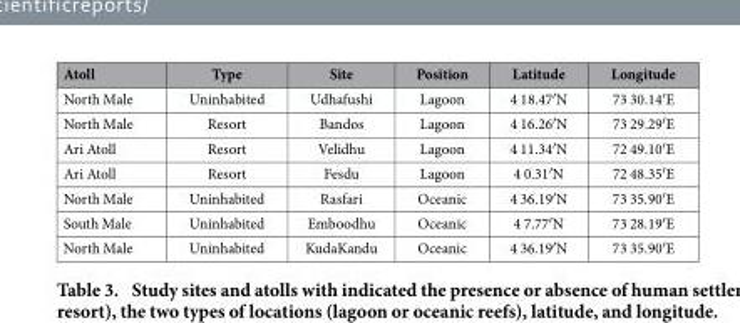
<table><thead><tr><td>Atoll</td><td>Type</td><td>Site</td><td>Position</td><td>Latitude</td><td>Longitude</td></tr></thead><tbody><tr><td>North Male</td><td>Uninhabited</td><td>Udhafushi</td><td>Lagoon</td><td>4 18.47′ N</td><td>73 30.14′ E</td></tr><tr><td>North Male</td><td>Resort</td><td>Bandos</td><td>Lagoon</td><td>4 16.26′ N</td><td>73 29.29′ E</td></tr><tr><td>Ari Atoll</td><td>Resort</td><td>Velidhu</td><td>Lagoon</td><td>4 11.34′ N</td><td>72 49.10′ E</td></tr><tr><td>Ari Atoll</td><td>Resort</td><td>Fesdu</td><td>Lagoon</td><td>4 0.31′ N</td><td>72 48.35′ E</td></tr><tr><td>North Male</td><td>Uninhabited</td><td>Rasfari</td><td>Oceanic</td><td>4 36.19′ N</td><td>73 35.90′ E</td></tr><tr><td>South Male</td><td>Uninhabited</td><td>Emboodhu</td><td>Oceanic</td><td>4 7.77′ N</td><td>73 28.19′ E</td></tr><tr><td>North Male</td><td>Uninhabited</td><td>KudaKandu</td><td>Oceanic</td><td>4 36.19′ N</td><td>73 35.90′ E</td></tr></tbody></table>